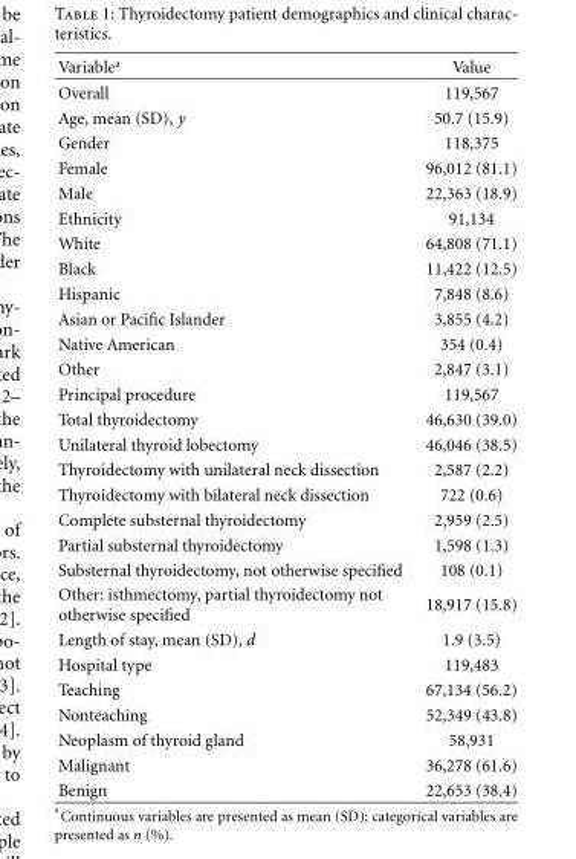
<table><thead><tr><td>Variable<sup>a</sup></td><td>Value</td></tr></thead><tbody><tr><td>Overall</td><td>119,567</td></tr><tr><td>Age, mean (SD), y</td><td>50.7 (15.9)</td></tr><tr><td>Gender</td><td>118,375</td></tr><tr><td>Female</td><td>96,012 (81.1)</td></tr><tr><td>Male</td><td>22,363 (18.9)</td></tr><tr><td>Ethnicity</td><td>91,134</td></tr><tr><td>White</td><td>64,808 (71.1)</td></tr><tr><td>Black</td><td>11,422 (12.5)</td></tr><tr><td>Hispanic</td><td>7,848 (8.6)</td></tr><tr><td>Asian or Pacific Islander</td><td>3,855 (4.2)</td></tr><tr><td>Native American</td><td>354 (0.4)</td></tr><tr><td>Other</td><td>2,847 (3.1)</td></tr><tr><td>Principal procedure</td><td>119,567</td></tr><tr><td>Total thyroidectomy</td><td>46,630 (39.0)</td></tr><tr><td>Unilateral thyroid lobectomy</td><td>46,046 (38.5)</td></tr><tr><td>Thyroidectomy with unilateral neck dissection</td><td>2,587 (2.2)</td></tr><tr><td>Thyroidectomy with bilateral neck dissection</td><td>722 (0.6)</td></tr><tr><td>Complete substernal thyroidectomy</td><td>2,959 (2.5)</td></tr><tr><td>Partial substernal thyroidectomy</td><td>1,598 (1.3)</td></tr><tr><td>Substernal thyroidectomy, not otherwise specified</td><td>108 (0.1)</td></tr><tr><td>Other: isthmectomy, partial thyroidectomy not otherwise specified</td><td>18,917 (15.8)</td></tr><tr><td>Length of stay, mean (SD), d</td><td>1.9 (3.5)</td></tr><tr><td>Hospital type</td><td>119,483</td></tr><tr><td>Teaching</td><td>67,134 (56.2)</td></tr><tr><td>Nonteaching</td><td>52,349 (43.8)</td></tr><tr><td>Neoplasm of thyroid gland</td><td>58,931</td></tr><tr><td>Malignant</td><td>36,278 (61.6)</td></tr><tr><td>Benign</td><td>22,653 (38.4)</td></tr></tbody></table>